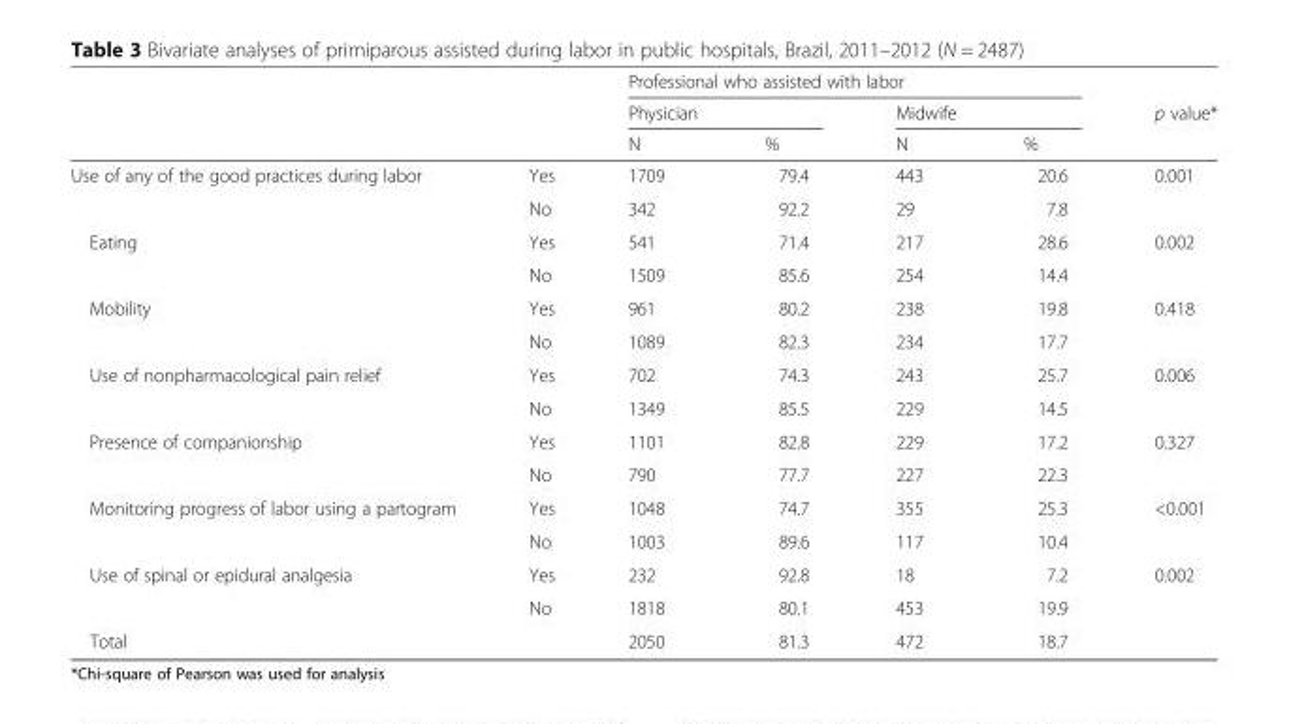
<table><thead><tr><td rowspan="3"></td><td rowspan="3"></td><td colspan="4">Professional who assisted with labor</td><td rowspan="3">p value*</td></tr><tr><td colspan="2">Physician</td><td colspan="2">Midwife</td></tr><tr><td>N</td><td>%</td><td>N</td><td>%</td></tr></thead><tbody><tr><td rowspan="2">Use of any of the good practices during labor</td><td>Yes</td><td>1709</td><td>79.4</td><td>443</td><td>20.6</td><td rowspan="2">0.001</td></tr><tr><td>No</td><td>342</td><td>92.2</td><td>29</td><td>7.8</td></tr><tr><td rowspan="2">Eating</td><td>Yes</td><td>541</td><td>71.4</td><td>217</td><td>28.6</td><td rowspan="2">0.002</td></tr><tr><td>No</td><td>1509</td><td>85.6</td><td>254</td><td>14.4</td></tr><tr><td rowspan="2">Mobility</td><td>Yes</td><td>961</td><td>80.2</td><td>238</td><td>19.8</td><td rowspan="2">0.418</td></tr><tr><td>No</td><td>1089</td><td>82.3</td><td>234</td><td>17.7</td></tr><tr><td rowspan="2">Use of nonpharmacological pain relief</td><td>Yes</td><td>702</td><td>74.3</td><td>243</td><td>25.7</td><td rowspan="2">0.006</td></tr><tr><td>No</td><td>1349</td><td>85.5</td><td>229</td><td>14.5</td></tr><tr><td rowspan="2">Presence of companionship</td><td>Yes</td><td>1101</td><td>82.8</td><td>229</td><td>17.2</td><td rowspan="2">0.327</td></tr><tr><td>No</td><td>790</td><td>77.7</td><td>227</td><td>22.3</td></tr><tr><td rowspan="2">Monitoring progress of labor using a partogram</td><td>Yes</td><td>1048</td><td>74.7</td><td>355</td><td>25.3</td><td rowspan="2">&lt;0.001</td></tr><tr><td>No</td><td>1003</td><td>89.6</td><td>117</td><td>10.4</td></tr><tr><td rowspan="2">Use of spinal or epidural analgesia</td><td>Yes</td><td>232</td><td>92.8</td><td>18</td><td>7.2</td><td rowspan="2">0.002</td></tr><tr><td>No</td><td>1818</td><td>80.1</td><td>453</td><td>19.9</td></tr><tr><td>Total</td><td></td><td>2050</td><td>81.3</td><td>472</td><td>18.7</td><td></td></tr></tbody></table>